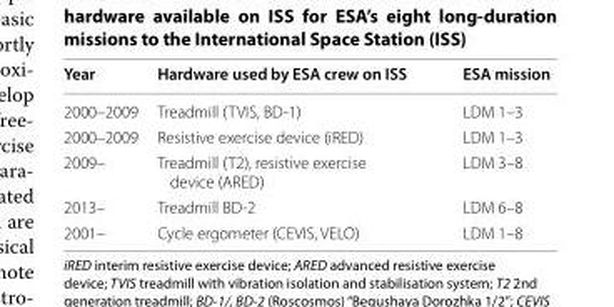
<table><thead><tr><td>Year</td><td>Hardware used by ESA crew on ISS</td><td>ESA mission</td></tr></thead><tbody><tr><td>2000–2009</td><td>Treadmill (TVIS, BD‑1)</td><td>LDM 1–3</td></tr><tr><td>2000–2009</td><td>Resistive exercise device (iRED)</td><td>LDM 1–3</td></tr><tr><td>2009–</td><td>Treadmill (T2), resistive exercise device (ARED)</td><td>LDM 3–8</td></tr><tr><td>2013–</td><td>Treadmill BD‑2</td><td>LDM 6–8</td></tr><tr><td>2001–</td><td>Cycle ergometer (CEVIS, VELO)</td><td>LDM 1–8</td></tr></tbody></table>